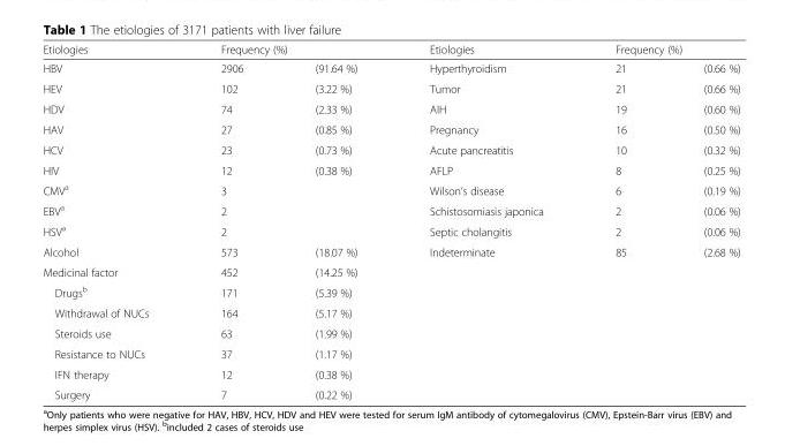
<table><thead><tr><td rowspan="2">Etiologies HBV</td><td colspan="2">Frequency (%)</td><td rowspan="2">Etiologies Hyperthyroidism</td><td colspan="2">Frequency (%)</td></tr><tr><td>2906</td><td>(91.64 %)</td><td>21</td><td>(0.66 %)</td></tr></thead><tbody><tr><td>HEV</td><td>102</td><td>(3.22 %)</td><td>Tumor</td><td>21</td><td>(0.66 %)</td></tr><tr><td>HDV</td><td>74</td><td>(2.33 %)</td><td>AIH</td><td>19</td><td>(0.60 %)</td></tr><tr><td>HAV</td><td>27</td><td>(0.85 %)</td><td>Pregnancy</td><td>16</td><td>(0.50 %)</td></tr><tr><td>HCV</td><td>23</td><td>(0.73 %)</td><td>Acute pancreatitis</td><td>10</td><td>(0.32 %)</td></tr><tr><td>HIV</td><td>12</td><td>(0.38 %)</td><td>AFLP</td><td>8</td><td>(0.25 %)</td></tr><tr><td>CMV<sup>a</sup></td><td>3</td><td></td><td>Wilson’s disease</td><td>6</td><td>(0.19 %)</td></tr><tr><td>EBV<sup>a</sup></td><td>2</td><td></td><td>Schistosomiasis japonica</td><td>2</td><td>(0.06 %)</td></tr><tr><td>HSV<sup>a</sup></td><td>2</td><td></td><td>Septic cholangitis</td><td>2</td><td>(0.06 %)</td></tr><tr><td>Alcohol</td><td>573</td><td>(18.07 %)</td><td>Indeterminate</td><td>85</td><td>(2.68 %)</td></tr><tr><td>Medicinal factor</td><td>452</td><td>(14.25 %)</td><td></td><td></td><td></td></tr><tr><td>Drugs<sup>b</sup></td><td>171</td><td>(5.39 %)</td><td></td><td></td><td></td></tr><tr><td>Withdrawal of NUCs</td><td>164</td><td>(5.17 %)</td><td></td><td></td><td></td></tr><tr><td>Steroids use</td><td>63</td><td>(1.99 %)</td><td></td><td></td><td></td></tr><tr><td>Resistance to NUCs</td><td>37</td><td>(1.17 %)</td><td></td><td></td><td></td></tr><tr><td>IFN therapy</td><td>12</td><td>(0.38 %)</td><td></td><td></td><td></td></tr><tr><td>Surgery</td><td>7</td><td>(0.22 %)</td><td></td><td></td><td></td></tr></tbody></table>